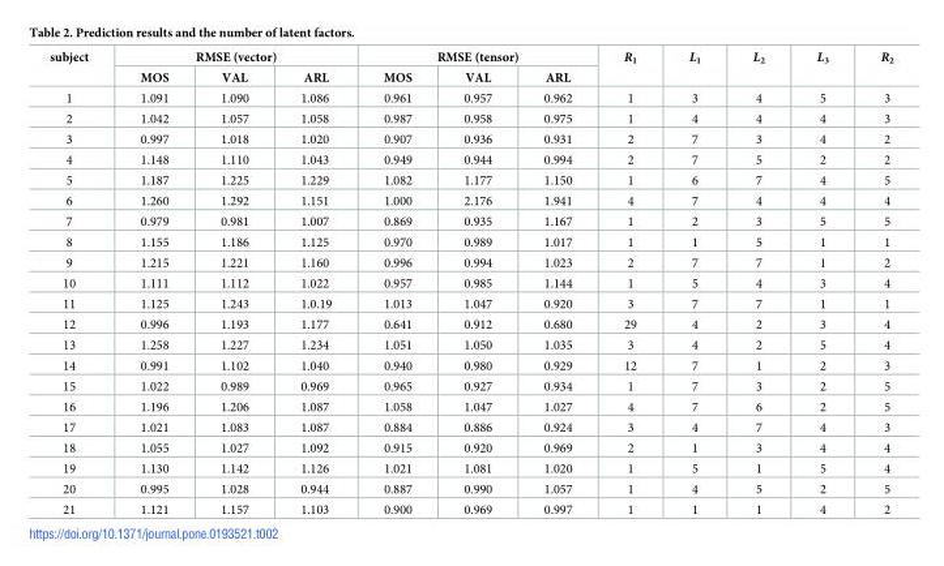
<table><thead><tr><td rowspan="2">subject</td><td colspan="3">RMSE (vector)</td><td colspan="3">RMSE (tensor)</td><td rowspan="2">R<sub>1</sub></td><td rowspan="2">L<sub>1</sub></td><td rowspan="2">L<sub>2</sub></td><td rowspan="2">L<sub>3</sub></td><td rowspan="2">R<sub>2</sub></td></tr><tr><td>MOS</td><td>VAL</td><td>ARL</td><td>MOS</td><td>VAL</td><td>ARL</td></tr></thead><tbody><tr><td>1</td><td>1.091</td><td>1.090</td><td>1.086</td><td>0.961</td><td>0.957</td><td>0.962</td><td>1</td><td>3</td><td>4</td><td>5</td><td>3</td></tr><tr><td>2</td><td>1.042</td><td>1.057</td><td>1.058</td><td>0.987</td><td>0.958</td><td>0.975</td><td>1</td><td>4</td><td>4</td><td>4</td><td>3</td></tr><tr><td>3</td><td>0.997</td><td>1.018</td><td>1.020</td><td>0.907</td><td>0.936</td><td>0.931</td><td>2</td><td>7</td><td>3</td><td>4</td><td>2</td></tr><tr><td>4</td><td>1.148</td><td>1.110</td><td>1.043</td><td>0.949</td><td>0.944</td><td>0.994</td><td>2</td><td>7</td><td>5</td><td>2</td><td>2</td></tr><tr><td>5</td><td>1.187</td><td>1.225</td><td>1.229</td><td>1.082</td><td>1.177</td><td>1.150</td><td>1</td><td>6</td><td>7</td><td>4</td><td>5</td></tr><tr><td>6</td><td>1.260</td><td>1.292</td><td>1.151</td><td>1.000</td><td>2.176</td><td>1.941</td><td>4</td><td>7</td><td>4</td><td>4</td><td>4</td></tr><tr><td>7</td><td>0.979</td><td>0.981</td><td>1.007</td><td>0.869</td><td>0.935</td><td>1.167</td><td>1</td><td>2</td><td>3</td><td>5</td><td>5</td></tr><tr><td>8</td><td>1.155</td><td>1.186</td><td>1.125</td><td>0.970</td><td>0.989</td><td>1.017</td><td>1</td><td>1</td><td>5</td><td>1</td><td>1</td></tr><tr><td>9</td><td>1.215</td><td>1.221</td><td>1.160</td><td>0.996</td><td>0.994</td><td>1.023</td><td>2</td><td>7</td><td>7</td><td>1</td><td>2</td></tr><tr><td>10</td><td>1.111</td><td>1.112</td><td>1.022</td><td>0.957</td><td>0.985</td><td>1.144</td><td>1</td><td>5</td><td>4</td><td>3</td><td>4</td></tr><tr><td>11</td><td>1.125</td><td>1.243</td><td>1.0.19</td><td>1.013</td><td>1.047</td><td>0.920</td><td>3</td><td>7</td><td>7</td><td>1</td><td>1</td></tr><tr><td>12</td><td>0.996</td><td>1.193</td><td>1.177</td><td>0.641</td><td>0.912</td><td>0.680</td><td>29</td><td>4</td><td>2</td><td>3</td><td>4</td></tr><tr><td>13</td><td>1.258</td><td>1.227</td><td>1.234</td><td>1.051</td><td>1.050</td><td>1.035</td><td>3</td><td>4</td><td>2</td><td>5</td><td>4</td></tr><tr><td>14</td><td>0.991</td><td>1.102</td><td>1.040</td><td>0.940</td><td>0.980</td><td>0.929</td><td>12</td><td>7</td><td>1</td><td>2</td><td>3</td></tr><tr><td>15</td><td>1.022</td><td>0.989</td><td>0.969</td><td>0.965</td><td>0.927</td><td>0.934</td><td>1</td><td>7</td><td>3</td><td>2</td><td>5</td></tr><tr><td>16</td><td>1.196</td><td>1.206</td><td>1.087</td><td>1.058</td><td>1.047</td><td>1.027</td><td>4</td><td>7</td><td>6</td><td>2</td><td>5</td></tr><tr><td>17</td><td>1.021</td><td>1.083</td><td>1.087</td><td>0.884</td><td>0.886</td><td>0.924</td><td>3</td><td>4</td><td>7</td><td>4</td><td>3</td></tr><tr><td>18</td><td>1.055</td><td>1.027</td><td>1.092</td><td>0.915</td><td>0.920</td><td>0.969</td><td>2</td><td>1</td><td>3</td><td>4</td><td>4</td></tr><tr><td>19</td><td>1.130</td><td>1.142</td><td>1.126</td><td>1.021</td><td>1.081</td><td>1.020</td><td>1</td><td>5</td><td>1</td><td>5</td><td>4</td></tr><tr><td>20</td><td>0.995</td><td>1.028</td><td>0.944</td><td>0.887</td><td>0.990</td><td>1.057</td><td>1</td><td>4</td><td>5</td><td>2</td><td>5</td></tr><tr><td>21</td><td>1.121</td><td>1.157</td><td>1.103</td><td>0.900</td><td>0.969</td><td>0.997</td><td>1</td><td>1</td><td>1</td><td>4</td><td>2</td></tr></tbody></table>